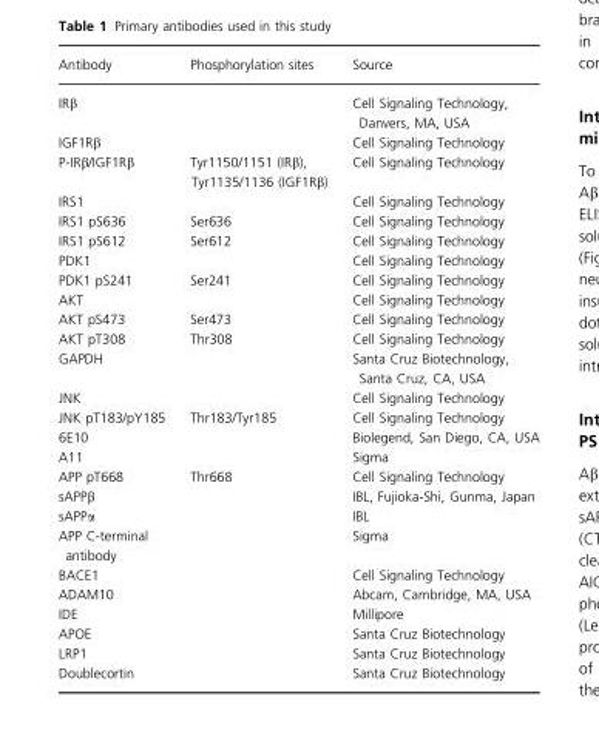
<table><thead><tr><td>Antibody</td><td>Phosphorylation sites</td><td>Source</td></tr></thead><tbody><tr><td>IRβ</td><td></td><td>Cell Signaling Technology, Danvers, MA, USA</td></tr><tr><td>IGF1Rβ</td><td></td><td>Cell Signaling Technology</td></tr><tr><td>P-IRβ/IGF1Rβ</td><td>Tyr1150/1151 (IRβ), Tyr1135/1136 (IGF1Rβ)</td><td>Cell Signaling Technology</td></tr><tr><td>IRS1</td><td></td><td>Cell Signaling Technology</td></tr><tr><td>IRS1 pS636</td><td>Ser636</td><td>Cell Signaling Technology</td></tr><tr><td>IRS1 pS612</td><td>Ser612</td><td>Cell Signaling Technology</td></tr><tr><td>PDK1</td><td></td><td>Cell Signaling Technology</td></tr><tr><td>PDK1 pS241</td><td>Ser241</td><td>Cell Signaling Technology</td></tr><tr><td>AKT</td><td></td><td>Cell Signaling Technology</td></tr><tr><td>AKT pS473</td><td>Ser473</td><td>Cell Signaling Technology</td></tr><tr><td>AKT pT308</td><td>Thr308</td><td>Cell Signaling Technology</td></tr><tr><td>GAPDH</td><td></td><td>Santa Cruz Biotechnology, Santa Cruz, CA, USA</td></tr><tr><td>JNK</td><td></td><td>Cell Signaling Technology</td></tr><tr><td>JNK pT183/pY185</td><td>Thr183/Tyr185</td><td>Cell Signaling Technology</td></tr><tr><td>6E10</td><td></td><td>Biolegend, San Diego, CA, USA</td></tr><tr><td>A11</td><td></td><td>Sigma</td></tr><tr><td>APP pT668</td><td>Thr668</td><td>Cell Signaling Technology</td></tr><tr><td>sAPPβ</td><td></td><td>IBL, Fujioka-Shi, Gunma, Japan</td></tr><tr><td>sAPPα</td><td></td><td>IBL</td></tr><tr><td>APP C-terminal antibody</td><td></td><td>Sigma</td></tr><tr><td>BACE1</td><td></td><td>Cell Signaling Technology</td></tr><tr><td>ADAM10</td><td></td><td>Abcam, Cambridge, MA, USA</td></tr><tr><td>IDE</td><td></td><td>Millipore</td></tr><tr><td>APOE</td><td></td><td>Santa Cruz Biotechnology</td></tr><tr><td>LRP1</td><td></td><td>Santa Cruz Biotechnology</td></tr><tr><td>Doublecortin</td><td></td><td>Santa Cruz Biotechnology</td></tr></tbody></table>